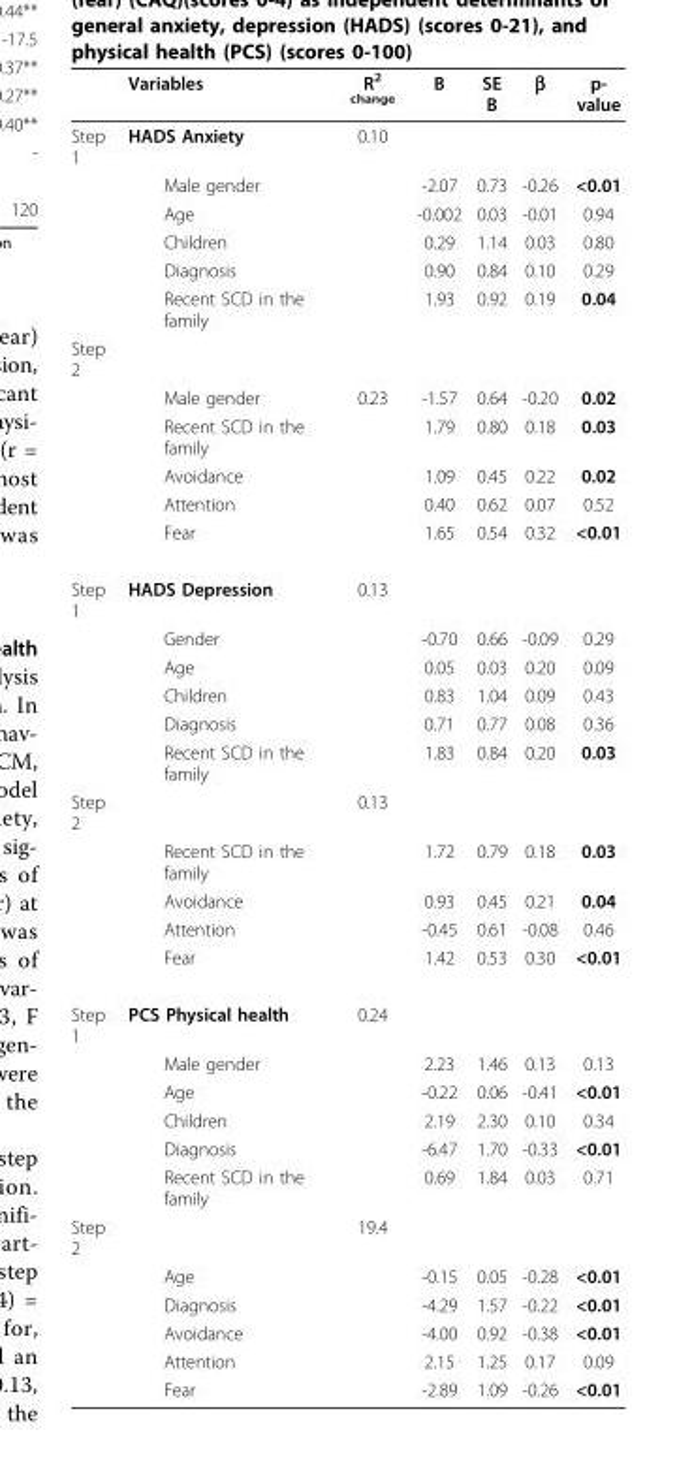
<table><thead><tr><td></td><td>Variables</td><td>R<sup>2 change</sup></td><td>B</td><td>SE B</td><td>β</td><td>p- value</td></tr></thead><tbody><tr><td rowspan="6">Step 1</td><td>HADS Anxiety</td><td>0.10</td><td></td><td></td><td></td><td></td></tr><tr><td>Male gender</td><td></td><td>-2.07</td><td>0.73</td><td>-0.26</td><td>&lt;0.01</td></tr><tr><td>Age</td><td></td><td>-0.002</td><td>0.03</td><td>-0.01</td><td>0.94</td></tr><tr><td>Children</td><td></td><td>0.29</td><td>1.14</td><td>0.03</td><td>0.80</td></tr><tr><td>Diagnosis</td><td></td><td>0.90</td><td>0.84</td><td>0.10</td><td>0.29</td></tr><tr><td>Recent SCD in the family</td><td></td><td>1.93</td><td>0.92</td><td>0.19</td><td>0.04</td></tr><tr><td colspan="7">Step 2</td></tr><tr><td></td><td>Male gender</td><td>0.23</td><td>-1.57</td><td>0.64</td><td>-0.20</td><td>0.02</td></tr><tr><td></td><td>Recent SCD in the family</td><td></td><td>1.79</td><td>0.80</td><td>0.18</td><td>0.03</td></tr><tr><td></td><td>Avoidance</td><td></td><td>1.09</td><td>0.45</td><td>0.22</td><td>0.02</td></tr><tr><td></td><td>Attention</td><td></td><td>0.40</td><td>0.62</td><td>0.07</td><td>0.52</td></tr><tr><td></td><td>Fear</td><td></td><td>1.65</td><td>0.54</td><td>0.32</td><td>&lt;0.01</td></tr><tr><td rowspan="6">Step 1</td><td>HADS Depression</td><td>0.13</td><td></td><td></td><td></td><td></td></tr><tr><td>Gender</td><td></td><td>-0.70</td><td>0.66</td><td>-0.09</td><td>0.29</td></tr><tr><td>Age</td><td></td><td>0.05</td><td>0.03</td><td>0.20</td><td>0.09</td></tr><tr><td>Children</td><td></td><td>0.83</td><td>1.04</td><td>0.09</td><td>0.43</td></tr><tr><td>Diagnosis</td><td></td><td>0.71</td><td>0.77</td><td>0.08</td><td>0.36</td></tr><tr><td>Recent SCD in the family</td><td></td><td>1.83</td><td>0.84</td><td>0.20</td><td>0.03</td></tr><tr><td rowspan="5">Step 2</td><td></td><td>0.13</td><td></td><td></td><td></td><td></td></tr><tr><td>Recent SCD in the family</td><td></td><td>1.72</td><td>0.79</td><td>0.18</td><td>0.03</td></tr><tr><td>Avoidance</td><td></td><td>0.93</td><td>0.45</td><td>0.21</td><td>0.04</td></tr><tr><td>Attention</td><td></td><td>-0.45</td><td>0.61</td><td>-0.08</td><td>0.46</td></tr><tr><td>Fear</td><td></td><td>1.42</td><td>0.53</td><td>0.30</td><td>&lt;0.01</td></tr><tr><td rowspan="6">Step 1</td><td>PCS Physical health</td><td>0.24</td><td></td><td></td><td></td><td></td></tr><tr><td>Male gender</td><td></td><td>2.23</td><td>1.46</td><td>0.13</td><td>0.13</td></tr><tr><td>Age</td><td></td><td>-0.22</td><td>0.06</td><td>-0.41</td><td>&lt;0.01</td></tr><tr><td>Children</td><td></td><td>2.19</td><td>2.30</td><td>0.10</td><td>0.34</td></tr><tr><td>Diagnosis</td><td></td><td>-6.47</td><td>1.70</td><td>-0.33</td><td>&lt;0.01</td></tr><tr><td>Recent SCD in the family</td><td></td><td>0.69</td><td>1.84</td><td>0.03</td><td>0.71</td></tr><tr><td rowspan="6">Step 2</td><td></td><td>19.4</td><td></td><td></td><td></td><td></td></tr><tr><td>Age</td><td></td><td>-0.15</td><td>0.05</td><td>-0.28</td><td>&lt;0.01</td></tr><tr><td>Diagnosis</td><td></td><td>-4.29</td><td>1.57</td><td>-0.22</td><td>&lt;0.01</td></tr><tr><td>Avoidance</td><td></td><td>-4.00</td><td>0.92</td><td>-0.38</td><td>&lt;0.01</td></tr><tr><td>Attention</td><td></td><td>2.15</td><td>1.25</td><td>0.17</td><td>0.09</td></tr><tr><td>Fear</td><td></td><td>-2.89</td><td>1.09</td><td>-0.26</td><td>&lt;0.01</td></tr></tbody></table>